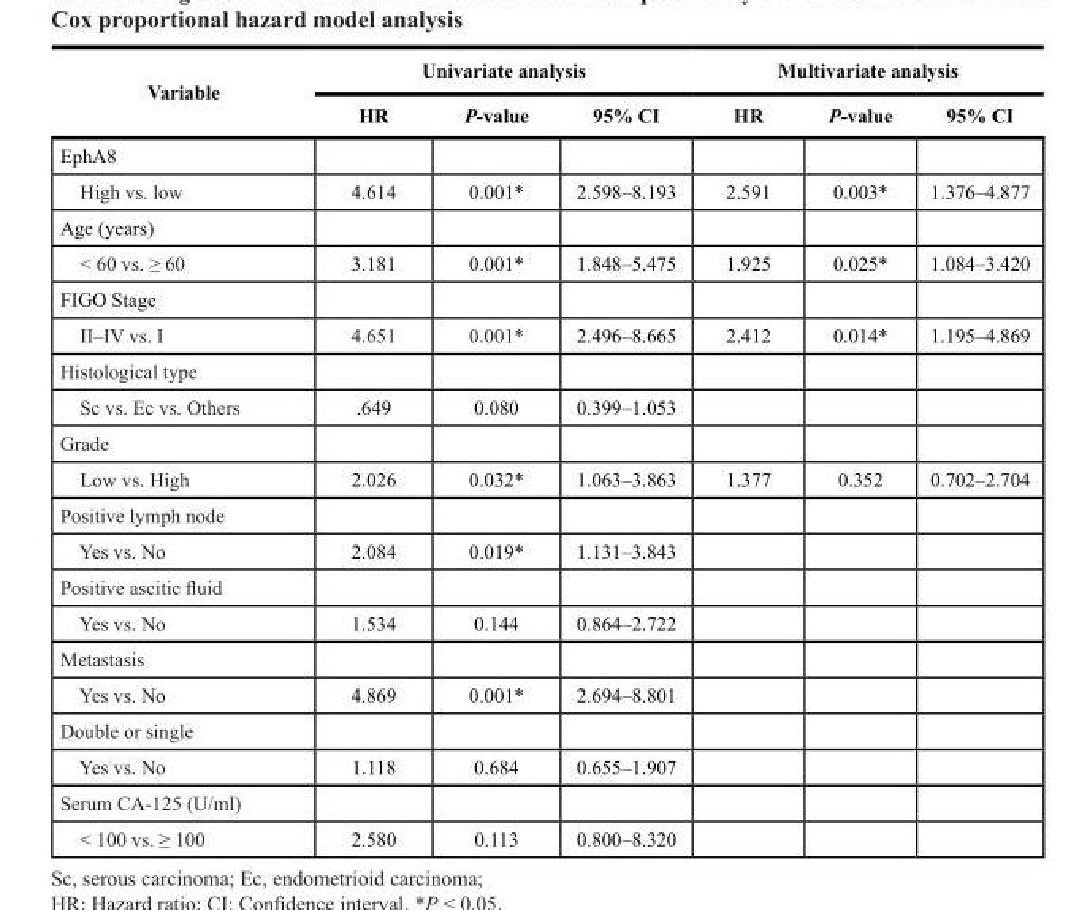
<table><thead><tr><td rowspan="2">Variable</td><td colspan="3">Univariate analysis</td><td colspan="3">Multivariate analysis</td></tr><tr><td>HR</td><td>P-value</td><td>95% CI</td><td>HR</td><td>P-value</td><td>95% CI</td></tr></thead><tbody><tr><td colspan="7">EphA8</td></tr><tr><td>High vs. low</td><td>4.614</td><td>0.001*</td><td>2.598–8.193</td><td>2.591</td><td>0.003*</td><td>1.376–4.877</td></tr><tr><td colspan="7">Age (years)</td></tr><tr><td>&lt; 60 vs. ≥ 60</td><td>3.181</td><td>0.001*</td><td>1.848–5.475</td><td>1.925</td><td>0.025*</td><td>1.084–3.420</td></tr><tr><td colspan="7">FIGO Stage</td></tr><tr><td>II–IV vs. I</td><td>4.651</td><td>0.001*</td><td>2.496–8.665</td><td>2.412</td><td>0.014*</td><td>1.195–4.869</td></tr><tr><td colspan="7">Histological type</td></tr><tr><td>Sc vs. Ec vs. Others</td><td>.649</td><td>0.080</td><td>0.399–1.053</td><td></td><td></td><td></td></tr><tr><td colspan="7">Grade</td></tr><tr><td>Low vs. High</td><td>2.026</td><td>0.032*</td><td>1.063–3.863</td><td>1.377</td><td>0.352</td><td>0.702–2.704</td></tr><tr><td colspan="7">Positive lymph node</td></tr><tr><td>Yes vs. No</td><td>2.084</td><td>0.019*</td><td>1.131–3.843</td><td></td><td></td><td></td></tr><tr><td colspan="7">Positive ascitic fluid</td></tr><tr><td>Yes vs. No</td><td>1.534</td><td>0.144</td><td>0.864–2.722</td><td></td><td></td><td></td></tr><tr><td colspan="7">Metastasis</td></tr><tr><td>Yes vs. No</td><td>4.869</td><td>0.001*</td><td>2.694–8.801</td><td></td><td></td><td></td></tr><tr><td colspan="7">Double or single</td></tr><tr><td>Yes vs. No</td><td>1.118</td><td>0.684</td><td>0.655–1.907</td><td></td><td></td><td></td></tr><tr><td colspan="7">Serum CA-125 (U/ml)</td></tr><tr><td>&lt; 100 vs. ≥ 100</td><td>2.580</td><td>0.113</td><td>0.800–8.320</td><td></td><td></td><td></td></tr></tbody></table>